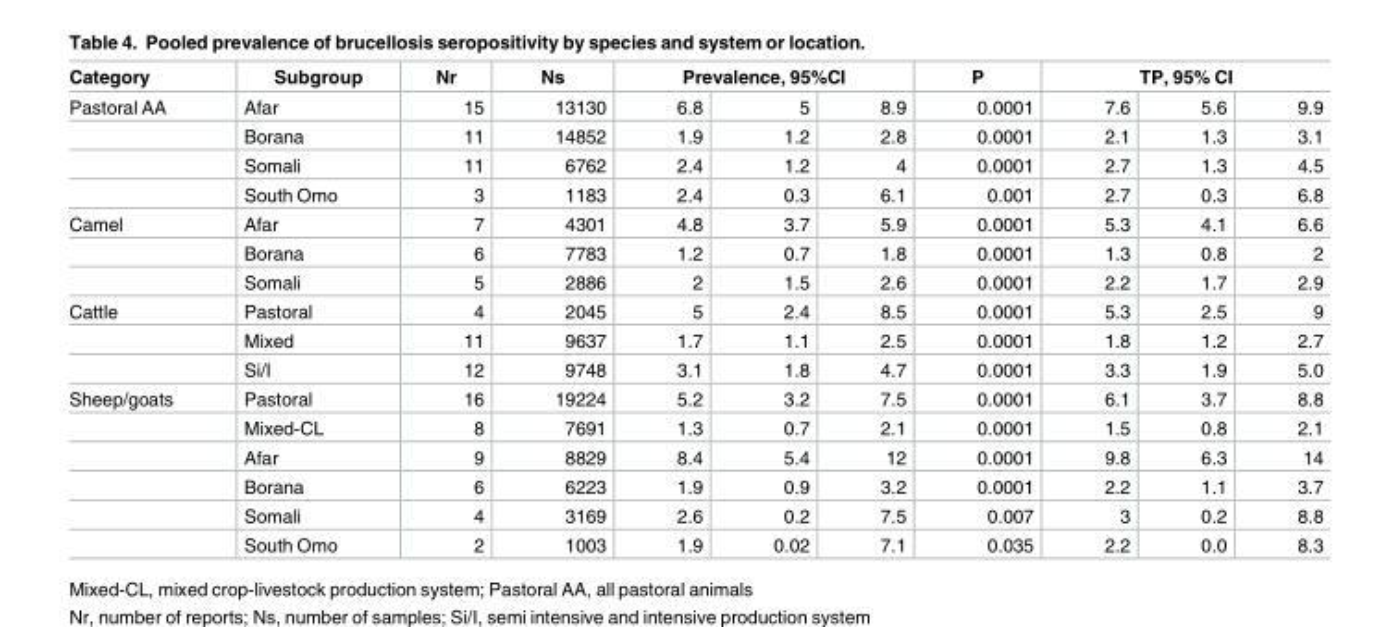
<table><thead><tr><td rowspan="2">Category Pastoral AA</td><td rowspan="2">Subgroup Afar</td><td rowspan="2">Nr 15</td><td rowspan="2">Ns 13130</td><td colspan="3">Prevalence, 95%CI</td><td rowspan="2">P 0.0001</td><td colspan="3">TP, 95% CI</td></tr><tr><td>6.8</td><td>5</td><td>8.9</td><td>7.6</td><td>5.6</td><td>9.9</td></tr></thead><tbody><tr><td></td><td>Borana</td><td>11</td><td>14852</td><td>1.9</td><td>1.2</td><td>2.8</td><td>0.0001</td><td>2.1</td><td>1.3</td><td>3.1</td></tr><tr><td></td><td>Somali</td><td>11</td><td>6762</td><td>2.4</td><td>1.2</td><td>4</td><td>0.0001</td><td>2.7</td><td>1.3</td><td>4.5</td></tr><tr><td></td><td>South Omo</td><td>3</td><td>1183</td><td>2.4</td><td>0.3</td><td>6.1</td><td>0.001</td><td>2.7</td><td>0.3</td><td>6.8</td></tr><tr><td rowspan="3">Camel</td><td>Afar</td><td>7</td><td>4301</td><td>4.8</td><td>3.7</td><td>5.9</td><td>0.0001</td><td>5.3</td><td>4.1</td><td>6.6</td></tr><tr><td>Borana</td><td>6</td><td>7783</td><td>1.2</td><td>0.7</td><td>1.8</td><td>0.0001</td><td>1.3</td><td>0.8</td><td>2</td></tr><tr><td>Somali</td><td>5</td><td>2886</td><td>2</td><td>1.5</td><td>2.6</td><td>0.0001</td><td>2.2</td><td>1.7</td><td>2.9</td></tr><tr><td rowspan="3">Cattle</td><td>Pastoral</td><td>4</td><td>2045</td><td>5</td><td>2.4</td><td>8.5</td><td>0.0001</td><td>5.3</td><td>2.5</td><td>9</td></tr><tr><td>Mixed</td><td>11</td><td>9637</td><td>1.7</td><td>1.1</td><td>2.5</td><td>0.0001</td><td>1.8</td><td>1.2</td><td>2.7</td></tr><tr><td>Si/I</td><td>12</td><td>9748</td><td>3.1</td><td>1.8</td><td>4.7</td><td>0.0001</td><td>3.3</td><td>1.9</td><td>5.0</td></tr><tr><td rowspan="6">Sheep/goats</td><td>Pastoral</td><td>16</td><td>19224</td><td>5.2</td><td>3.2</td><td>7.5</td><td>0.0001</td><td>6.1</td><td>3.7</td><td>8.8</td></tr><tr><td>Mixed-CL</td><td>8</td><td>7691</td><td>1.3</td><td>0.7</td><td>2.1</td><td>0.0001</td><td>1.5</td><td>0.8</td><td>2.1</td></tr><tr><td>Afar</td><td>9</td><td>8829</td><td>8.4</td><td>5.4</td><td>12</td><td>0.0001</td><td>9.8</td><td>6.3</td><td>14</td></tr><tr><td>Borana</td><td>6</td><td>6223</td><td>1.9</td><td>0.9</td><td>3.2</td><td>0.0001</td><td>2.2</td><td>1.1</td><td>3.7</td></tr><tr><td>Somali</td><td>4</td><td>3169</td><td>2.6</td><td>0.2</td><td>7.5</td><td>0.007</td><td>3</td><td>0.2</td><td>8.8</td></tr><tr><td>South Omo</td><td>2</td><td>1003</td><td>1.9</td><td>0.02</td><td>7.1</td><td>0.035</td><td>2.2</td><td>0.0</td><td>8.3</td></tr></tbody></table>